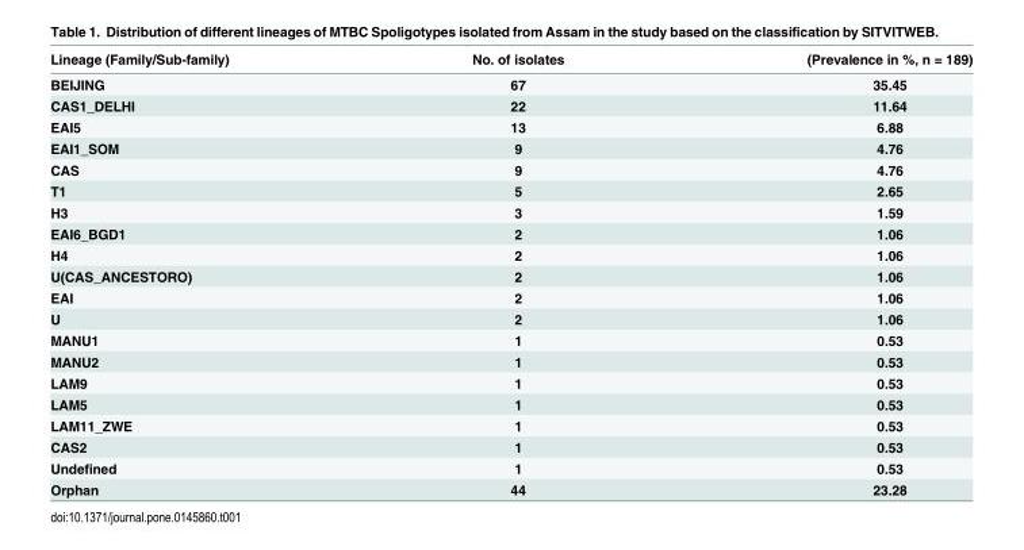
<table><thead><tr><td>Lineage (Family/Sub-family)</td><td>No. of isolates</td><td>(Prevalence in %, n = 189)</td></tr></thead><tbody><tr><td>BEIJING</td><td>67</td><td>35.45</td></tr><tr><td>CAS1_DELHI</td><td>22</td><td>11.64</td></tr><tr><td>EAI5</td><td>13</td><td>6.88</td></tr><tr><td>EAI1_SOM</td><td>9</td><td>4.76</td></tr><tr><td>CAS</td><td>9</td><td>4.76</td></tr><tr><td>T1</td><td>5</td><td>2.65</td></tr><tr><td>H3</td><td>3</td><td>1.59</td></tr><tr><td>EAI6_BGD1</td><td>2</td><td>1.06</td></tr><tr><td>H4</td><td>2</td><td>1.06</td></tr><tr><td>U(CAS_ANCESTORO)</td><td>2</td><td>1.06</td></tr><tr><td>EAI</td><td>2</td><td>1.06</td></tr><tr><td>U</td><td>2</td><td>1.06</td></tr><tr><td>MANU1</td><td>1</td><td>0.53</td></tr><tr><td>MANU2</td><td>1</td><td>0.53</td></tr><tr><td>LAM9</td><td>1</td><td>0.53</td></tr><tr><td>LAM5</td><td>1</td><td>0.53</td></tr><tr><td>LAM11_ZWE</td><td>1</td><td>0.53</td></tr><tr><td>CAS2</td><td>1</td><td>0.53</td></tr><tr><td>Undefined</td><td>1</td><td>0.53</td></tr><tr><td>Orphan</td><td>44</td><td>23.28</td></tr></tbody></table>